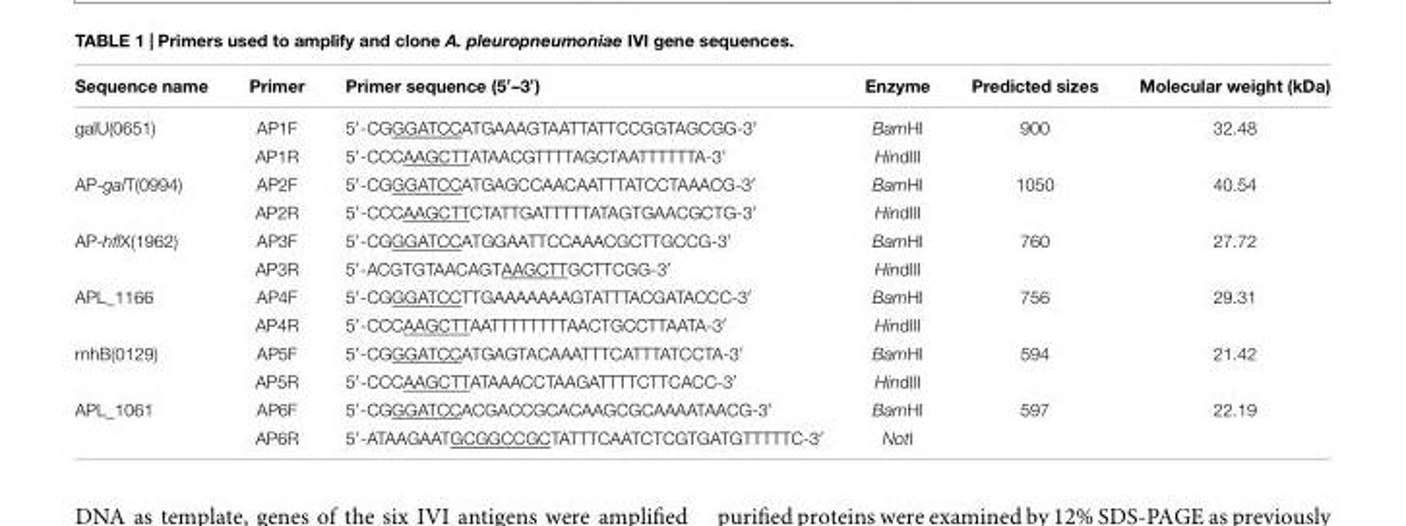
<table><thead><tr><td>Sequence name</td><td>Primer</td><td>Primer sequence (5′–3′)</td><td>Enzyme</td><td>Predicted sizes</td><td>Molecular weight (kDa)</td></tr></thead><tbody><tr><td rowspan="2">galU(0651)</td><td>AP1F</td><td>5′-CGGGATCCATGAAAGTAATTATTCCGGTAGCGG-3′</td><td>BamHI</td><td>900</td><td>32.48</td></tr><tr><td>AP1R</td><td>5′-CCCAAGCTTATAACGTTTTAGCTAATTTTTTA-3′</td><td>HindIII</td><td></td><td></td></tr><tr><td rowspan="2">AP-galT(0994)</td><td>AP2F</td><td>5′-CGGGATCCATGAGCCAACAATTTATCCTAAACG-3′</td><td>BamHI</td><td>1050</td><td>40.54</td></tr><tr><td>AP2R</td><td>5′-CCCAAGCTTCTATTGATTTTTATAGTGAACGCTG-3′</td><td>HindIII</td><td></td><td></td></tr><tr><td rowspan="2">AP-hflX(1962)</td><td>AP3F</td><td>5′-CGGGATCCATGGAATTCCAAACGCTTGCCG-3′</td><td>BamHI</td><td>760</td><td>27.72</td></tr><tr><td>AP3R</td><td>5′-ACGTGTAACAGTAAGCTTGCTTCGG-3′</td><td>HindIII</td><td></td><td></td></tr><tr><td rowspan="2">APL_1166</td><td>AP4F</td><td>5′-CGGGATCCTTGAAAAAAAGTATTTACGATACCC-3′</td><td>BamHI</td><td>756</td><td>29.31</td></tr><tr><td>AP4R</td><td>5′-CCCAAGCTTAATTTTTTTTAACTGCCTTAATA-3′</td><td>HindIII</td><td></td><td></td></tr><tr><td rowspan="2">rnhB(0129)</td><td>AP5F</td><td>5′-CGGGATCCATGAGTACAAATTTCATTTATCCTA-3′</td><td>BamHI</td><td>594</td><td>21.42</td></tr><tr><td>AP5R</td><td>5′-CCCAAGCTTATAAACCTAAGATTTTCTTCACC-3′</td><td>HindIII</td><td></td><td></td></tr><tr><td rowspan="2">APL_1061</td><td>AP6F</td><td>5′-CGGGATCCACGACCGCACAAGCGCAAAATAACG-3′</td><td>BamHI</td><td>597</td><td>22.19</td></tr><tr><td>AP6R</td><td>5′-ATAAGAATGCGGCCGCTATTTCAATCTCGTGATGTTTTTC-3′</td><td>NotI</td><td></td><td></td></tr></tbody></table>